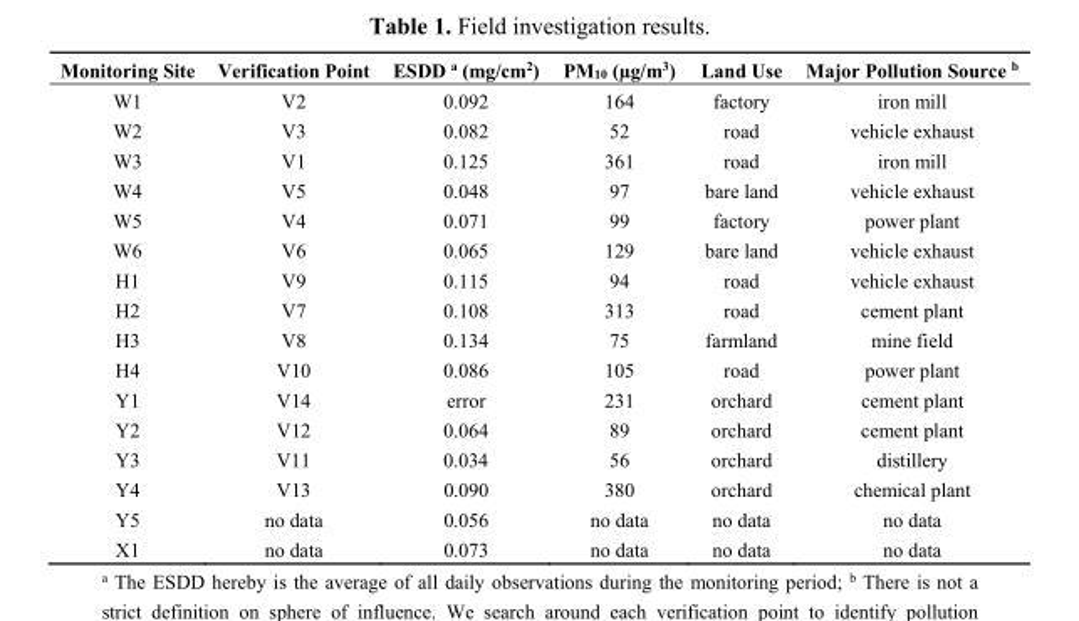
<table><thead><tr><td>Monitoring Site</td><td>Verification Point</td><td>ESDD <sup>a</sup> (mg/cm<sup>2</sup>)</td><td>PM<sub>10</sub> (µg/m<sup>3</sup>)</td><td>Land Use</td><td>Major Pollution Source <sup>b</sup></td></tr></thead><tbody><tr><td>W1</td><td>V2</td><td>0.092</td><td>164</td><td>factory</td><td>iron mill</td></tr><tr><td>W2</td><td>V3</td><td>0.082</td><td>52</td><td>road</td><td>vehicle exhaust</td></tr><tr><td>W3</td><td>V1</td><td>0.125</td><td>361</td><td>road</td><td>iron mill</td></tr><tr><td>W4</td><td>V5</td><td>0.048</td><td>97</td><td>bare land</td><td>vehicle exhaust</td></tr><tr><td>W5</td><td>V4</td><td>0.071</td><td>99</td><td>factory</td><td>power plant</td></tr><tr><td>W6</td><td>V6</td><td>0.065</td><td>129</td><td>bare land</td><td>vehicle exhaust</td></tr><tr><td>H1</td><td>V9</td><td>0.115</td><td>94</td><td>road</td><td>vehicle exhaust</td></tr><tr><td>H2</td><td>V7</td><td>0.108</td><td>313</td><td>road</td><td>cement plant</td></tr><tr><td>H3</td><td>V8</td><td>0.134</td><td>75</td><td>farmland</td><td>mine field</td></tr><tr><td>H4</td><td>V10</td><td>0.086</td><td>105</td><td>road</td><td>power plant</td></tr><tr><td>Y1</td><td>V14</td><td>error</td><td>231</td><td>orchard</td><td>cement plant</td></tr><tr><td>Y2</td><td>V12</td><td>0.064</td><td>89</td><td>orchard</td><td>cement plant</td></tr><tr><td>Y3</td><td>V11</td><td>0.034</td><td>56</td><td>orchard</td><td>distillery</td></tr><tr><td>Y4</td><td>V13</td><td>0.090</td><td>380</td><td>orchard</td><td>chemical plant</td></tr><tr><td>Y5</td><td>no data</td><td>0.056</td><td>no data</td><td>no data</td><td>no data</td></tr><tr><td>X1</td><td>no data</td><td>0.073</td><td>no data</td><td>no data</td><td>no data</td></tr></tbody></table>